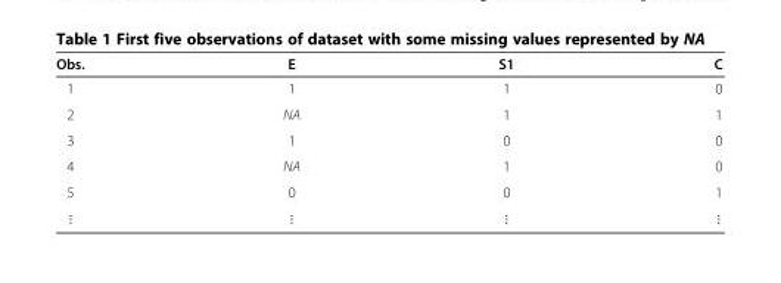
<table><thead><tr><td>Obs.</td><td>E</td><td>S1</td><td>C</td></tr></thead><tbody><tr><td>1</td><td>1</td><td>1</td><td>0</td></tr><tr><td>2</td><td>NA</td><td>1</td><td>1</td></tr><tr><td>3</td><td>1</td><td>0</td><td>0</td></tr><tr><td>4</td><td>NA</td><td>1</td><td>0</td></tr><tr><td>5</td><td>0</td><td>0</td><td>1</td></tr><tr><td>⋮</td><td>⋮</td><td>⋮</td><td>⋮</td></tr></tbody></table>